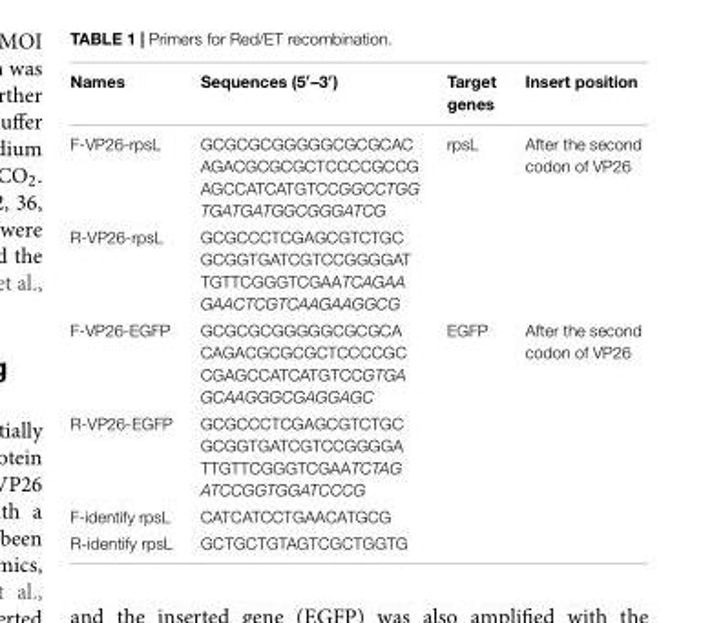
<table><thead><tr><td>Names</td><td>Sequences (5′–3′)</td><td>Target genes</td><td>Insert position</td></tr></thead><tbody><tr><td>F-VP26-rpsL</td><td>GCGCGCGGGGGCGCGCAC AGACGCGCGCTCCCCGCCG AGCCATCATGTCCGGCCTGG TGATGATGGCGGGATCG</td><td>rpsL</td><td>After the second codon of VP26</td></tr><tr><td>R-VP26-rpsL</td><td>GCGCCCTCGAGCGTCTGC GCGGTGATCGTCCGGGGAT TGTTCGGGTCGAATCAGAA GAACTCGTCAAGAAGGCG</td><td></td><td></td></tr><tr><td>F-VP26-EGFP</td><td>GCGCGCGGGGGCGCGCA CAGACGCGCGCTCCCCGC CGAGCCATCATGTCCGTGA GCAAGGGCGAGGAGC</td><td>EGFP</td><td>After the second codon of VP26</td></tr><tr><td>R-VP26-EGFP</td><td>GCGCCCTCGAGCGTCTGC GCGGTGATCGTCCGGGGA TTGTTCGGGTCGAATCTAG ATCCGGTGGATCCCG</td><td></td><td></td></tr><tr><td>F-identify rpsL</td><td>CATCATCCTGAACATGCG</td><td></td><td></td></tr><tr><td>R-identify rpsL</td><td>GCTGCTGTAGTCGCTGGTG</td><td></td><td></td></tr></tbody></table>